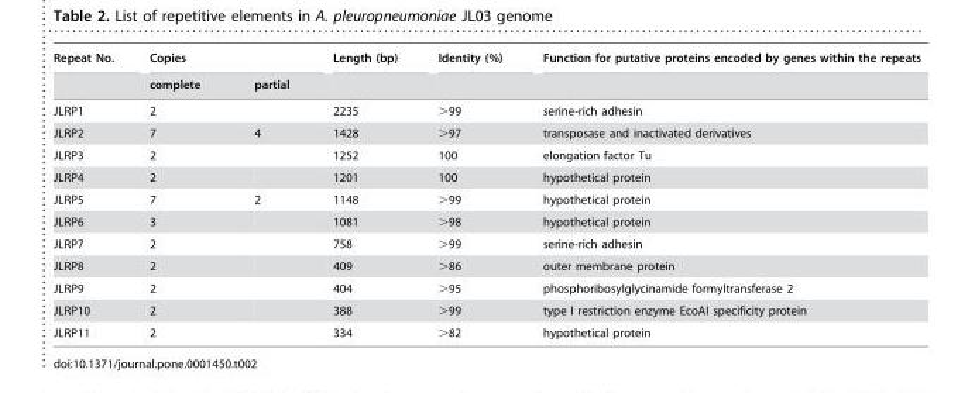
<table><thead><tr><td rowspan="2">Repeat No.</td><td colspan="2">Copies</td><td rowspan="2">Length (bp)</td><td rowspan="2">Identity (%)</td><td rowspan="2">Function for putative proteins encoded by genes within the repeats</td></tr><tr><td>complete</td><td>partial</td></tr></thead><tbody><tr><td>JLRP1</td><td>2</td><td></td><td>2235</td><td>&gt;99</td><td>serine-rich adhesin</td></tr><tr><td>JLRP2</td><td>7</td><td>4</td><td>1428</td><td>&gt;97</td><td>transposase and inactivated derivatives</td></tr><tr><td>JLRP3</td><td>2</td><td></td><td>1252</td><td>100</td><td>elongation factor Tu</td></tr><tr><td>JLRP4</td><td>2</td><td></td><td>1201</td><td>100</td><td>hypothetical protein</td></tr><tr><td>JLRP5</td><td>7</td><td>2</td><td>1148</td><td>&gt;99</td><td>hypothetical protein</td></tr><tr><td>JLRP6</td><td>3</td><td></td><td>1081</td><td>&gt;98</td><td>hypothetical protein</td></tr><tr><td>JLRP7</td><td>2</td><td></td><td>758</td><td>&gt;99</td><td>serine-rich adhesin</td></tr><tr><td>JLRP8</td><td>2</td><td></td><td>409</td><td>&gt;86</td><td>outer membrane protein</td></tr><tr><td>JLRP9</td><td>2</td><td></td><td>404</td><td>&gt;95</td><td>phosphoribosylglycinamide formyltransferase 2</td></tr><tr><td>JLRP10</td><td>2</td><td></td><td>388</td><td>&gt;99</td><td>type I restriction enzyme EcoAI specificity protein</td></tr><tr><td>JLRP11</td><td>2</td><td></td><td>334</td><td>&gt;82</td><td>hypothetical protein</td></tr></tbody></table>